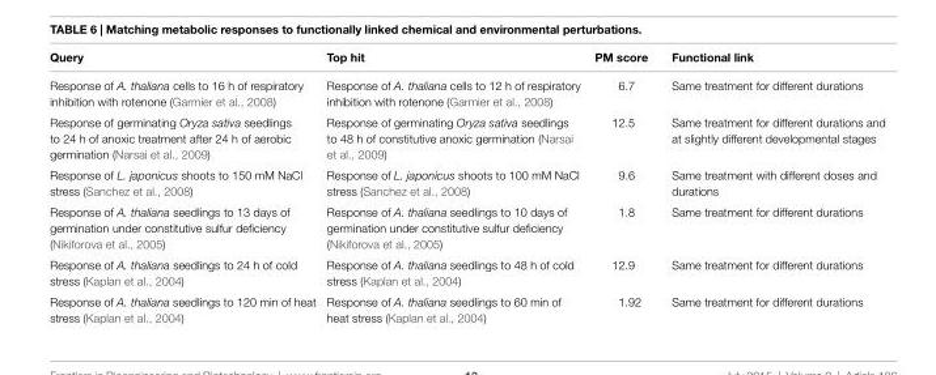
<table><thead><tr><td>Query</td><td>Top hit</td><td>pM score</td><td>Functional link</td></tr></thead><tbody><tr><td>Response of A. thaliana cells to 16 h of respiratory inhibition with rotenone (Garmier et al., 2008)</td><td>Response of A. thaliana cells to 12 h of respiratory inhibition with rotenone (Garmier et al., 2008)</td><td>6.7</td><td>Same treatment for different durations</td></tr><tr><td>Response of germinating Oryza sativa seedlings to 24 h of anoxic treatment after 24 h of aerobic germination (Narsai et al., 2009)</td><td>Response of germinating Oryza sativa seedlings to 48 h of constitutive anoxic germination (Narsai et al., 2009)</td><td>12.5</td><td>Same treatment for different durations and at slightly different developmental stages</td></tr><tr><td>Response of L. japonicus shoots to 150 mM NaCl stress (Sanchez et al., 2008)</td><td>Response of L. japonicus shoots to 100 mM NaCl stress (Sanchez et al., 2008)</td><td>9.6</td><td>Same treatment with different doses and durations</td></tr><tr><td>Response of A. thaliana seedlings to 13 days of germination under constitutive sulfur deficiency (Nikiforova et al., 2005)</td><td>Response of A. thaliana seedlings to 10 days of germination under constitutive sulfur deficiency (Nikiforova et al., 2005)</td><td>1.8</td><td>Same treatment for different durations</td></tr><tr><td>Response of A. thaliana seedlings to 24 h of cold stress (Kaplan et al., 2004)</td><td>Response of A. thaliana seedlings to 48 h of cold stress (Kaplan et al., 2004)</td><td>12.9</td><td>Same treatment for different durations</td></tr><tr><td>Response of A. thaliana seedlings to 120 min of heat stress (Kaplan et al., 2004)</td><td>Response of A. thaliana seedlings to 60 min of heat stress (Kaplan et al., 2004)</td><td>1.92</td><td>Same treatment for different durations</td></tr></tbody></table>